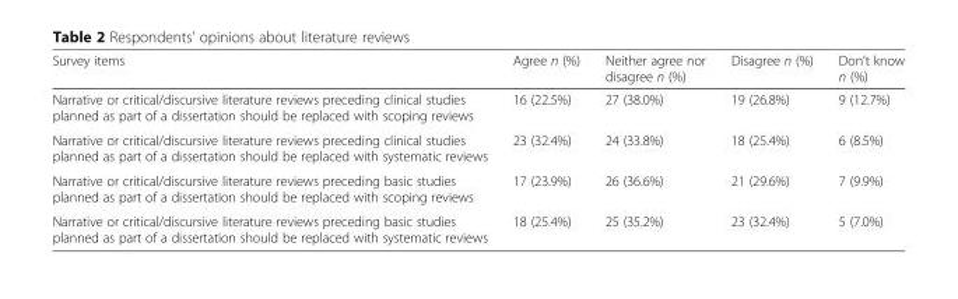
<table><thead><tr><td>Survey items</td><td>Agree n (%)</td><td>Neither agree nor disagree n (%)</td><td>Disagree n (%)</td><td>Don’t know n (%)</td></tr></thead><tbody><tr><td>Narrative or critical/discursive literature reviews preceding clinical studies planned as part of a dissertation should be replaced with scoping reviews</td><td>16 (22.5%)</td><td>27 (38.0%)</td><td>19 (26.8%)</td><td>9 (12.7%)</td></tr><tr><td>Narrative or critical/discursive literature reviews preceding clinical studies planned as part of a dissertation should be replaced with systematic reviews</td><td>23 (32.4%)</td><td>24 (33.8%)</td><td>18 (25.4%)</td><td>6 (8.5%)</td></tr><tr><td>Narrative or critical/discursive literature reviews preceding basic studies planned as part of a dissertation should be replaced with scoping reviews</td><td>17 (23.9%)</td><td>26 (36.6%)</td><td>21 (29.6%)</td><td>7 (9.9%)</td></tr><tr><td>Narrative or critical/discursive literature reviews preceding basic studies planned as part of a dissertation should be replaced with systematic reviews</td><td>18 (25.4%)</td><td>25 (35.2%)</td><td>23 (32.4%)</td><td>5 (7.0%)</td></tr></tbody></table>